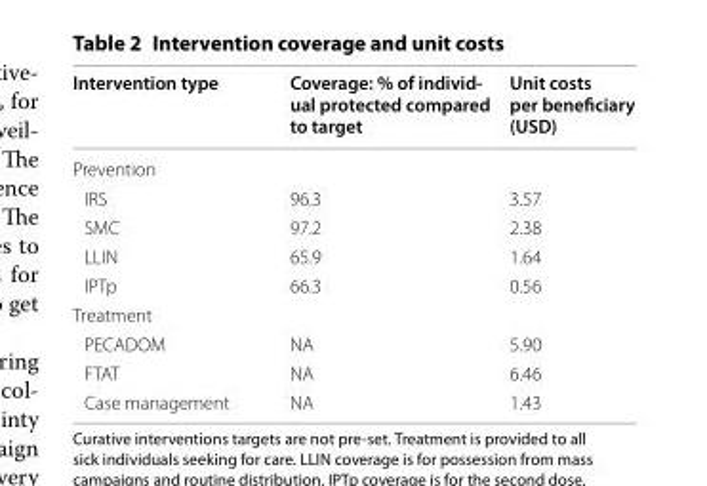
<table><thead><tr><td>Intervention type</td><td>Coverage: % of individ‑ ual protected compared to target</td><td>Unit costs per beneficiary (USD)</td></tr></thead><tbody><tr><td colspan="3">Prevention</td></tr><tr><td>IRS</td><td>96.3</td><td>3.57</td></tr><tr><td>SMC</td><td>97.2</td><td>2.38</td></tr><tr><td>LLIN</td><td>65.9</td><td>1.64</td></tr><tr><td>IPTp</td><td>66.3</td><td>0.56</td></tr><tr><td colspan="3">Treatment</td></tr><tr><td>PECADOM</td><td>NA</td><td>5.90</td></tr><tr><td>FTAT</td><td>NA</td><td>6.46</td></tr><tr><td>Case management</td><td>NA</td><td>1.43</td></tr></tbody></table>